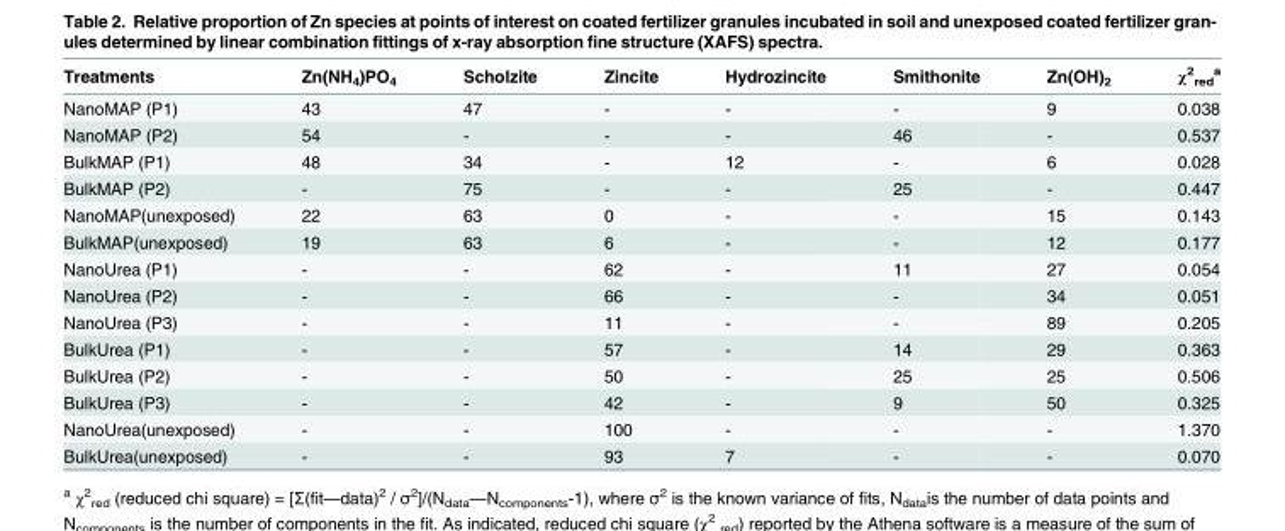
<table><thead><tr><td>Treatments</td><td>Zn(NH<sub>4</sub>)PO<sub>4</sub></td><td>Scholzite</td><td>Zincite</td><td>Hydrozincite</td><td>Smithonite</td><td>Zn(OH)<sub>2</sub></td><td>χ<sup>2</sup> <sub>red</sub> <sup>a</sup></td></tr></thead><tbody><tr><td>NanoMAP (P1)</td><td>43</td><td>47</td><td>-</td><td>-</td><td>-</td><td>9</td><td>0.038</td></tr><tr><td>NanoMAP (P2)</td><td>54</td><td>-</td><td>-</td><td>-</td><td>46</td><td>-</td><td>0.537</td></tr><tr><td>BulkMAP (P1)</td><td>48</td><td>34</td><td>-</td><td>12</td><td>-</td><td>6</td><td>0.028</td></tr><tr><td>BulkMAP (P2)</td><td>-</td><td>75</td><td>-</td><td>-</td><td>25</td><td>-</td><td>0.447</td></tr><tr><td>NanoMAP(unexposed)</td><td>22</td><td>63</td><td>0</td><td>-</td><td>-</td><td>15</td><td>0.143</td></tr><tr><td>BulkMAP(unexposed)</td><td>19</td><td>63</td><td>6</td><td>-</td><td>-</td><td>12</td><td>0.177</td></tr><tr><td>NanoUrea (P1)</td><td>-</td><td>-</td><td>62</td><td>-</td><td>11</td><td>27</td><td>0.054</td></tr><tr><td>NanoUrea (P2)</td><td>-</td><td>-</td><td>66</td><td>-</td><td>-</td><td>34</td><td>0.051</td></tr><tr><td>NanoUrea (P3)</td><td>-</td><td>-</td><td>11</td><td>-</td><td>-</td><td>89</td><td>0.205</td></tr><tr><td>BulkUrea (P1)</td><td>-</td><td>-</td><td>57</td><td>-</td><td>14</td><td>29</td><td>0.363</td></tr><tr><td>BulkUrea (P2)</td><td>-</td><td>-</td><td>50</td><td>-</td><td>25</td><td>25</td><td>0.506</td></tr><tr><td>BulkUrea (P3)</td><td>-</td><td>-</td><td>42</td><td>-</td><td>9</td><td>50</td><td>0.325</td></tr><tr><td>NanoUrea(unexposed)</td><td>-</td><td>-</td><td>100</td><td>-</td><td>-</td><td>-</td><td>1.370</td></tr><tr><td>BulkUrea(unexposed)</td><td>-</td><td>-</td><td>93</td><td>7</td><td>-</td><td>-</td><td>0.070</td></tr></tbody></table>